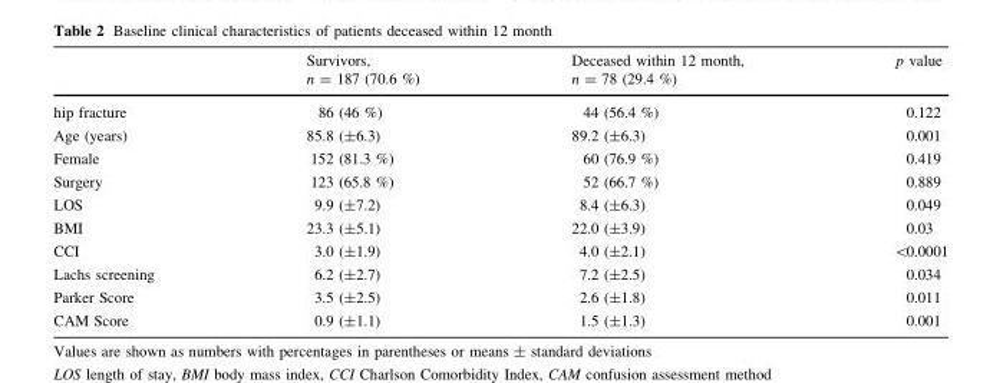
<table><thead><tr><td></td><td>Survivors, n = 187 (70.6 %)</td><td>Deceased within 12 month, n = 78 (29.4 %)</td><td>p value</td></tr></thead><tbody><tr><td>hip fracture</td><td>86 (46 %)</td><td>44 (56.4 %)</td><td>0.122</td></tr><tr><td>Age (years)</td><td>85.8 (±6.3)</td><td>89.2 (±6.3)</td><td>0.001</td></tr><tr><td>Female</td><td>152 (81.3 %)</td><td>60 (76.9 %)</td><td>0.419</td></tr><tr><td>Surgery</td><td>123 (65.8 %)</td><td>52 (66.7 %)</td><td>0.889</td></tr><tr><td>LOS</td><td>9.9 (±7.2)</td><td>8.4 (±6.3)</td><td>0.049</td></tr><tr><td>BMI</td><td>23.3 (±5.1)</td><td>22.0 (±3.9)</td><td>0.03</td></tr><tr><td>CCI</td><td>3.0 (±1.9)</td><td>4.0 (±2.1)</td><td>&lt;0.0001</td></tr><tr><td>Lachs screening</td><td>6.2 (±2.7)</td><td>7.2 (±2.5)</td><td>0.034</td></tr><tr><td>Parker Score</td><td>3.5 (±2.5)</td><td>2.6 (±1.8)</td><td>0.011</td></tr><tr><td>CAM Score</td><td>0.9 (±1.1)</td><td>1.5 (±1.3)</td><td>0.001</td></tr></tbody></table>